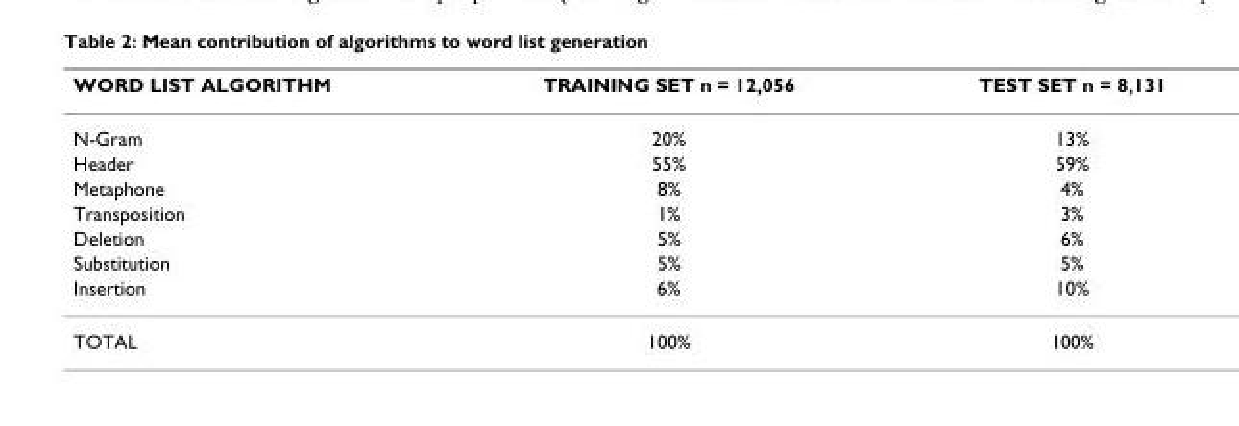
<table><thead><tr><td>WORD LIST ALGORITHM</td><td>TRAINING SET n = 12,056</td><td>TEST SET n = 8,131</td></tr></thead><tbody><tr><td>N-Gram</td><td>20%</td><td>13%</td></tr><tr><td>Header</td><td>55%</td><td>59%</td></tr><tr><td>Metaphone</td><td>8%</td><td>4%</td></tr><tr><td>Transposition</td><td>1%</td><td>3%</td></tr><tr><td>Deletion</td><td>5%</td><td>6%</td></tr><tr><td>Substitution</td><td>5%</td><td>5%</td></tr><tr><td>Insertion</td><td>6%</td><td>10%</td></tr><tr><td>TOTAL</td><td>100%</td><td>100%</td></tr></tbody></table>